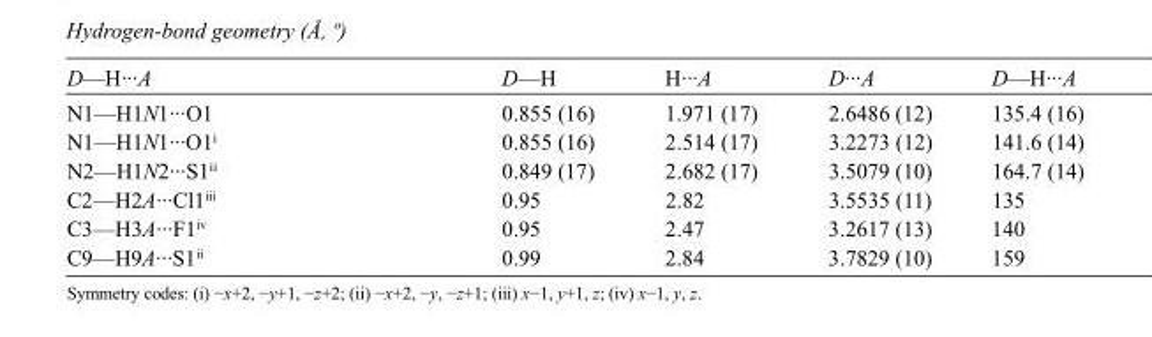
<table><tbody><tr><td>D—H···A</td><td>D—H</td><td>H···A</td><td>D···A</td><td>D—H···A</td></tr><tr><td>N1—H1N1···O1</td><td>0.855 (16)</td><td>1.971 (17)</td><td>2.6486 (12)</td><td>135.4 (16)</td></tr><tr><td>N1—H1N1···O1<sup>i</sup></td><td>0.855 (16)</td><td>2.514 (17)</td><td>3.2273 (12)</td><td>141.6 (14)</td></tr><tr><td>N2—H1N2···S1<sup>ii</sup></td><td>0.849 (17)</td><td>2.682 (17)</td><td>3.5079 (10)</td><td>164.7 (14)</td></tr><tr><td>C2—H2A···Cl1<sup>iii</sup></td><td>0.95</td><td>2.82</td><td>3.5535 (11)</td><td>135</td></tr><tr><td>C3—H3A···F1<sup>iv</sup></td><td>0.95</td><td>2.47</td><td>3.2617 (13)</td><td>140</td></tr><tr><td>C9—H9A···S1<sup>ii</sup></td><td>0.99</td><td>2.84</td><td>3.7829 (10)</td><td>159</td></tr></tbody></table>